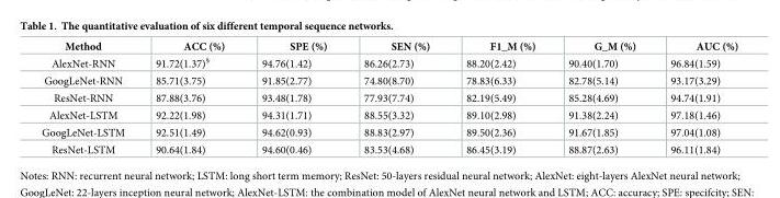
<table><thead><tr><td>Method</td><td>ACC (%)</td><td>SPE (%)</td><td>SEN (%)</td><td>F1_M (%)</td><td>G_M (%)</td><td>AUC (%)</td></tr></thead><tbody><tr><td>AlexNet-RNN</td><td>91.72(1.37)<sup>§</sup></td><td>94.76(1.42)</td><td>86.26(2.73)</td><td>88.20(2.42)</td><td>90.40(1.70)</td><td>96.84(1.59)</td></tr><tr><td>GoogLeNet-RNN</td><td>85.71(3.75)</td><td>91.85(2.77)</td><td>74.80(8.70)</td><td>78.83(6.33)</td><td>82.78(5.14)</td><td>93.17(3.29)</td></tr><tr><td>ResNet-RNN</td><td>87.88(3.76)</td><td>93.48(1.78)</td><td>77.93(7.74)</td><td>82.19(5.49)</td><td>85.28(4.69)</td><td>94.74(1.91)</td></tr><tr><td>AlexNet-LSTM</td><td>92.22(1.98)</td><td>94.31(1.71)</td><td>88.55(3.32)</td><td>89.10(2.98)</td><td>91.38(2.24)</td><td>97.18(1.46)</td></tr><tr><td>GoogLeNet-LSTM</td><td>92.51(1.49)</td><td>94.62(0.93)</td><td>88.83(2.97)</td><td>89.50(2.36)</td><td>91.67(1.85)</td><td>97.04(1.08)</td></tr><tr><td>ResNet-LSTM</td><td>90.64(1.84)</td><td>94.60(0.46)</td><td>83.53(4.68)</td><td>86.45(3.19)</td><td>88.87(2.63)</td><td>96.11(1.84)</td></tr></tbody></table>